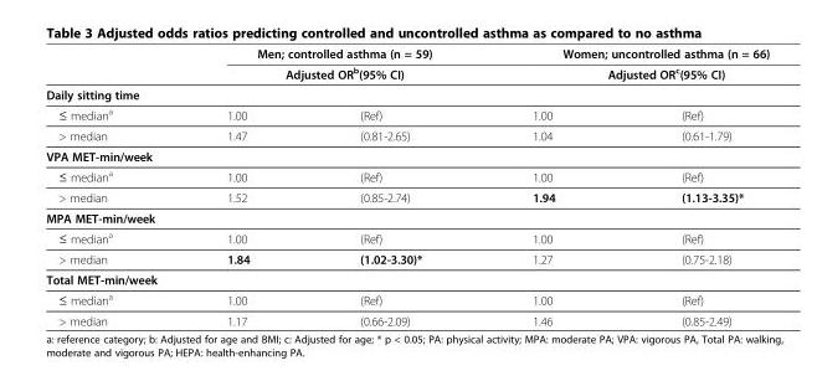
<table><thead><tr><td rowspan="3">Daily sitting time</td><td rowspan="2" colspan="2">Men; controlled asthma (n = 59) Adjusted OR<sup>b</sup>(95% CI)</td><td rowspan="2" colspan="2">Women; uncontrolled asthma (n = 66) Adjusted OR<sup>c</sup>(95% CI)</td></tr><tr></tr><tr><td></td><td></td><td></td><td></td></tr></thead><tbody><tr><td>≤ median<sup>a</sup></td><td>1.00</td><td>(Ref)</td><td>1.00</td><td>(Ref)</td></tr><tr><td>&gt; median</td><td>1.47</td><td>(0.81-2.65)</td><td>1.04</td><td>(0.61-1.79)</td></tr><tr><td colspan="5">VPA MET-min/week</td></tr><tr><td>≤ median<sup>a</sup></td><td>1.00</td><td>(Ref)</td><td>1.00</td><td>(Ref)</td></tr><tr><td>&gt; median</td><td>1.52</td><td>(0.85-2.74)</td><td>1.94</td><td>(1.13-3.35)*</td></tr><tr><td colspan="5">MPA MET-min/week</td></tr><tr><td>≤ median<sup>a</sup></td><td>1.00</td><td>(Ref)</td><td>1.00</td><td>(Ref)</td></tr><tr><td>&gt; median</td><td>1.84</td><td>(1.02-3.30)*</td><td>1.27</td><td>(0.75-2.18)</td></tr><tr><td colspan="5">Total MET-min/week</td></tr><tr><td>≤ median<sup>a</sup></td><td>1.00</td><td>(Ref)</td><td>1.00</td><td>(Ref)</td></tr><tr><td>&gt; median</td><td>1.17</td><td>(0.66-2.09)</td><td>1.46</td><td>(0.85-2.49)</td></tr></tbody></table>